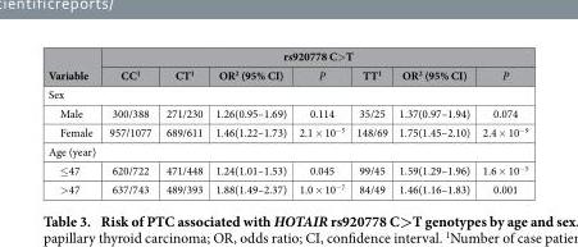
<table><thead><tr><td rowspan="2">Variable</td><td colspan="7">rs920778 C&gt; T</td></tr><tr><td>CC<sup>1</sup></td><td>CT<sup>1</sup></td><td>OR<sup>2</sup> (95% CI)</td><td>P</td><td>TT<sup>1</sup></td><td>OR<sup>2</sup> (95% CI)</td><td>P</td></tr></thead><tbody><tr><td colspan="8">Sex</td></tr><tr><td>Male</td><td>300/388</td><td>271/230</td><td>1.26(0.95–1.69)</td><td>0.114</td><td>35/25</td><td>1.37(0.97–1.94)</td><td>0.074</td></tr><tr><td>Female</td><td>957/1077</td><td>689/611</td><td>1.46(1.22–1.73)</td><td>2.1 × 10<sup>−5</sup></td><td>148/69</td><td>1.75(1.45–2.10)</td><td>2.4 × 10<sup>−9</sup></td></tr><tr><td colspan="8">Age (year)</td></tr><tr><td>≤ 47</td><td>620/722</td><td>471/448</td><td>1.24(1.01–1.53)</td><td>0.045</td><td>99/45</td><td>1.59(1.29–1.96)</td><td>1.6 × 10<sup>−5</sup></td></tr><tr><td>&gt; 47</td><td>637/743</td><td>489/393</td><td>1.88(1.49–2.37)</td><td>1.0 × 10<sup>−7</sup></td><td>84/49</td><td>1.46(1.16–1.83)</td><td>0.001</td></tr></tbody></table>